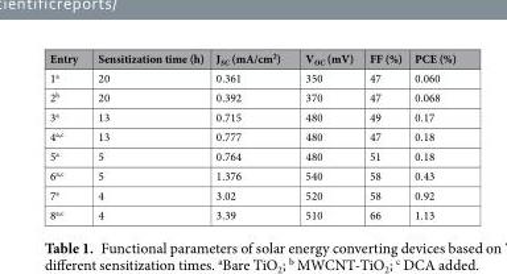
<table><thead><tr><td>Entry</td><td>Sensitization time (h)</td><td>J<sub>SC</sub> (mA/cm<sup>2</sup>)</td><td>V<sub>OC</sub> (mV)</td><td>FF (%)</td><td>PCE (%)</td></tr></thead><tbody><tr><td>1<sup>a</sup></td><td>20</td><td>0.361</td><td>350</td><td>47</td><td>0.060</td></tr><tr><td>2<sup>b</sup></td><td>20</td><td>0.392</td><td>370</td><td>47</td><td>0.068</td></tr><tr><td>3<sup>a</sup></td><td>13</td><td>0.715</td><td>480</td><td>49</td><td>0.17</td></tr><tr><td>4<sup>a,c</sup></td><td>13</td><td>0.777</td><td>480</td><td>47</td><td>0.18</td></tr><tr><td>5<sup>a</sup></td><td>5</td><td>0.764</td><td>480</td><td>51</td><td>0.18</td></tr><tr><td>6<sup>a,c</sup></td><td>5</td><td>1.376</td><td>540</td><td>58</td><td>0.43</td></tr><tr><td>7<sup>a</sup></td><td>4</td><td>3.02</td><td>520</td><td>58</td><td>0.92</td></tr><tr><td>8<sup>a,c</sup></td><td>4</td><td>3.39</td><td>510</td><td>66</td><td>1.13</td></tr></tbody></table>